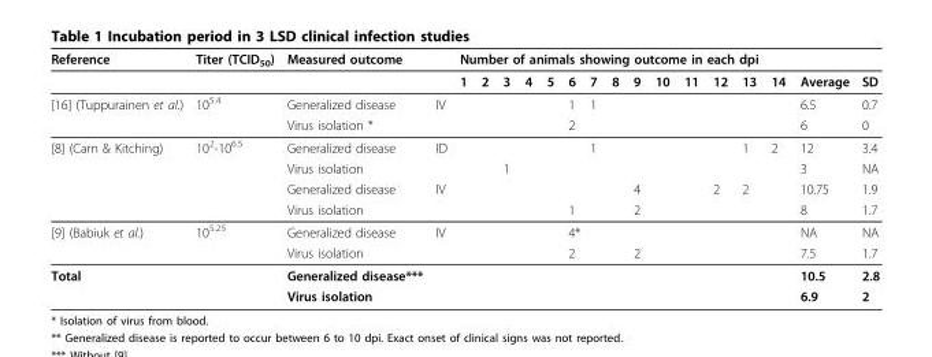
<table><thead><tr><td rowspan="2">Reference</td><td rowspan="2">Titer (TCID<sub>50</sub>)</td><td rowspan="2">Measured outcome</td><td rowspan="2"></td><td colspan="14">Number of animals showing outcome in each dpi</td><td rowspan="2">Average</td><td rowspan="2">SD</td></tr><tr><td>1</td><td>2</td><td>3</td><td>4</td><td>5</td><td>6</td><td>7</td><td>8</td><td>9</td><td>10</td><td>11</td><td>12</td><td>13</td><td>14</td></tr></thead><tbody><tr><td rowspan="2">[16] (Tuppurainen et al.)</td><td>10<sup>5.4</sup></td><td>Generalized disease</td><td>IV</td><td></td><td></td><td></td><td></td><td></td><td>1</td><td>1</td><td></td><td></td><td></td><td></td><td></td><td></td><td></td><td>6.5</td><td>0.7</td></tr><tr><td></td><td>Virus isolation *</td><td></td><td></td><td></td><td></td><td></td><td></td><td>2</td><td></td><td></td><td></td><td></td><td></td><td></td><td></td><td></td><td>6</td><td>0</td></tr><tr><td rowspan="4">[8] (Carn &amp; Kitching)</td><td>10<sup>2</sup>-10<sup>6.5</sup></td><td>Generalized disease</td><td>ID</td><td></td><td></td><td></td><td></td><td></td><td></td><td>1</td><td></td><td></td><td></td><td></td><td></td><td>1</td><td>2</td><td>12</td><td>3.4</td></tr><tr><td></td><td>Virus isolation</td><td></td><td></td><td></td><td>1</td><td></td><td></td><td></td><td></td><td></td><td></td><td></td><td></td><td></td><td></td><td></td><td>3</td><td>NA</td></tr><tr><td></td><td>Generalized disease</td><td>IV</td><td></td><td></td><td></td><td></td><td></td><td></td><td></td><td></td><td>4</td><td></td><td></td><td>2</td><td>2</td><td></td><td>10.75</td><td>1.9</td></tr><tr><td></td><td>Virus isolation</td><td></td><td></td><td></td><td></td><td></td><td></td><td>1</td><td></td><td></td><td>2</td><td></td><td></td><td></td><td></td><td></td><td>8</td><td>1.7</td></tr><tr><td rowspan="2">[9] (Babiuk et al.)</td><td>10<sup>5.25</sup></td><td>Generalized disease</td><td>IV</td><td></td><td></td><td></td><td></td><td></td><td colspan="5">4*</td><td></td><td></td><td></td><td></td><td>NA</td><td>NA</td></tr><tr><td></td><td>Virus isolation</td><td></td><td></td><td></td><td></td><td></td><td></td><td>2</td><td></td><td></td><td>2</td><td></td><td></td><td></td><td></td><td></td><td>7.5</td><td>1.7</td></tr><tr><td rowspan="2">Total</td><td></td><td>Generalized disease***</td><td></td><td></td><td></td><td></td><td></td><td></td><td></td><td></td><td></td><td></td><td></td><td></td><td></td><td></td><td></td><td>10.5</td><td>2.8</td></tr><tr><td></td><td>Virus isolation</td><td></td><td></td><td></td><td></td><td></td><td></td><td></td><td></td><td></td><td></td><td></td><td></td><td></td><td></td><td></td><td>6.9</td><td>2</td></tr></tbody></table>